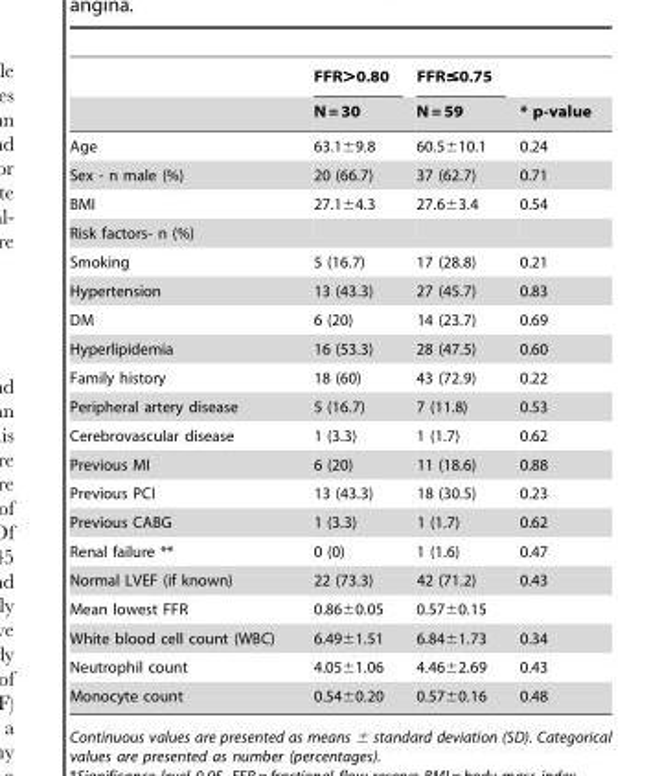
<table><thead><tr><td rowspan="2"></td><td rowspan="2">FFR&gt;0.80 N = 30</td><td rowspan="2">FFR≤0.75 N = 59</td><td rowspan="2">* p-value</td></tr><tr></tr></thead><tbody><tr><td>Age</td><td>63.1±9.8</td><td>60.5±10.1</td><td>0.24</td></tr><tr><td>Sex - n male (%)</td><td>20 (66.7)</td><td>37 (62.7)</td><td>0.71</td></tr><tr><td>BMI</td><td>27.1±4.3</td><td>27.6±3.4</td><td>0.54</td></tr><tr><td colspan="4">Risk factors- n (%)</td></tr><tr><td>Smoking</td><td>5 (16.7)</td><td>17 (28.8)</td><td>0.21</td></tr><tr><td>Hypertension</td><td>13 (43.3)</td><td>27 (45.7)</td><td>0.83</td></tr><tr><td>DM</td><td>6 (20)</td><td>14 (23.7)</td><td>0.69</td></tr><tr><td>Hyperlipidemia</td><td>16 (53.3)</td><td>28 (47.5)</td><td>0.60</td></tr><tr><td>Family history</td><td>18 (60)</td><td>43 (72.9)</td><td>0.22</td></tr><tr><td>Peripheral artery disease</td><td>5 (16.7)</td><td>7 (11.8)</td><td>0.53</td></tr><tr><td>Cerebrovascular disease</td><td>1 (3.3)</td><td>1 (1.7)</td><td>0.62</td></tr><tr><td>Previous MI</td><td>6 (20)</td><td>11 (18.6)</td><td>0.88</td></tr><tr><td>Previous PCI</td><td>13 (43.3)</td><td>18 (30.5)</td><td>0.23</td></tr><tr><td>Previous CABG</td><td>1 (3.3)</td><td>1 (1.7)</td><td>0.62</td></tr><tr><td>Renal failure **</td><td>0 (0)</td><td>1 (1.6)</td><td>0.47</td></tr><tr><td>Normal LVEF (if known)</td><td>22 (73.3)</td><td>42 (71.2)</td><td>0.43</td></tr><tr><td>Mean lowest FFR</td><td>0.86±0.05</td><td>0.57±0.15</td><td></td></tr><tr><td>White blood cell count (WBC)</td><td>6.49±1.51</td><td>6.84±1.73</td><td>0.34</td></tr><tr><td>Neutrophil count</td><td>4.05±1.06</td><td>4.46±2.69</td><td>0.43</td></tr><tr><td>Monocyte count</td><td>0.54±0.20</td><td>0.57±0.16</td><td>0.48</td></tr></tbody></table>